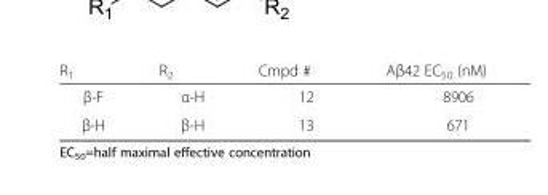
<table><thead><tr><td>R<sub>1</sub></td><td>R<sub>2</sub></td><td>Cmpd #</td><td>Aβ42 EC<sub>50</sub> (nM)</td></tr></thead><tbody><tr><td>β-F</td><td>α-H</td><td>12</td><td>8906</td></tr><tr><td>β-H</td><td>β-H</td><td>13</td><td>671</td></tr></tbody></table>